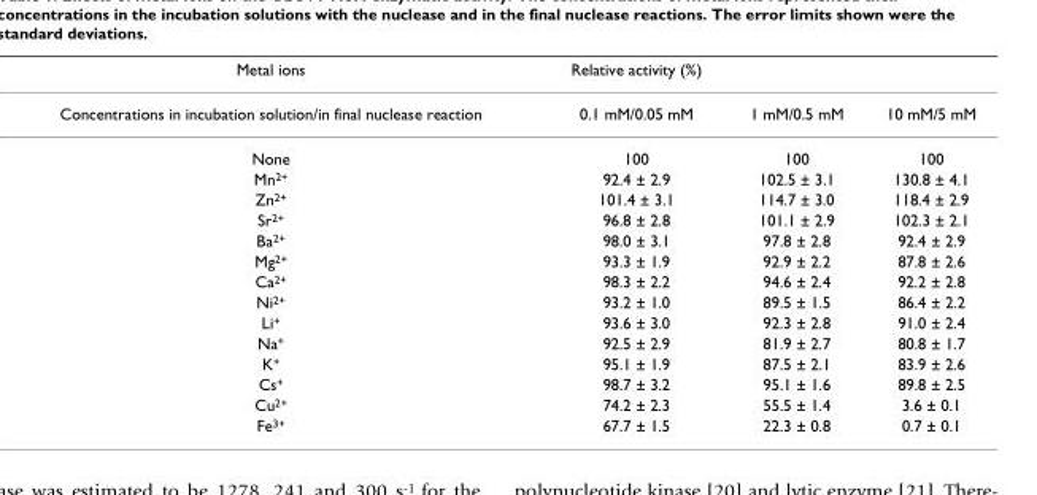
<table><thead><tr><td>Metal ions</td><td>Relative activity (%)</td><td></td><td></td></tr></thead><tbody><tr><td>Concentrations in incubation solution/in final nuclease reaction</td><td>0.1 mM/0.05 mM</td><td>1 mM/0.5 mM</td><td>10 mM/5 mM</td></tr><tr><td>None</td><td>100</td><td>100</td><td>100</td></tr><tr><td>Mn<sup>2+</sup></td><td>92.4 ± 2.9</td><td>102.5 ± 3.1</td><td>130.8 ± 4.1</td></tr><tr><td>Zn<sup>2+</sup></td><td>101.4 ± 3.1</td><td>114.7 ± 3.0</td><td>118.4 ± 2.9</td></tr><tr><td>Sr<sup>2+</sup></td><td>96.8 ± 2.8</td><td>101.1 ± 2.9</td><td>102.3 ± 2.1</td></tr><tr><td>Ba<sup>2+</sup></td><td>98.0 ± 3.1</td><td>97.8 ± 2.8</td><td>92.4 ± 2.9</td></tr><tr><td>Mg<sup>2+</sup></td><td>93.3 ± 1.9</td><td>92.9 ± 2.2</td><td>87.8 ± 2.6</td></tr><tr><td>Ca<sup>2+</sup></td><td>98.3 ± 2.2</td><td>94.6 ± 2.4</td><td>92.2 ± 2.8</td></tr><tr><td>Ni<sup>2+</sup></td><td>93.2 ± 1.0</td><td>89.5 ± 1.5</td><td>86.4 ± 2.2</td></tr><tr><td>Li<sup>+</sup></td><td>93.6 ± 3.0</td><td>92.3 ± 2.8</td><td>91.0 ± 2.4</td></tr><tr><td>Na<sup>+</sup></td><td>92.5 ± 2.9</td><td>81.9 ± 2.7</td><td>80.8 ± 1.7</td></tr><tr><td>K<sup>+</sup></td><td>95.1 ± 1.9</td><td>87.5 ± 2.1</td><td>83.9 ± 2.6</td></tr><tr><td>Cs<sup>+</sup></td><td>98.7 ± 3.2</td><td>95.1 ± 1.6</td><td>89.8 ± 2.5</td></tr><tr><td>Cu<sup>2+</sup></td><td>74.2 ± 2.3</td><td>55.5 ± 1.4</td><td>3.6 ± 0.1</td></tr><tr><td>Fe<sup>3+</sup></td><td>67.7 ± 1.5</td><td>22.3 ± 0.8</td><td>0.7 ± 0.1</td></tr></tbody></table>